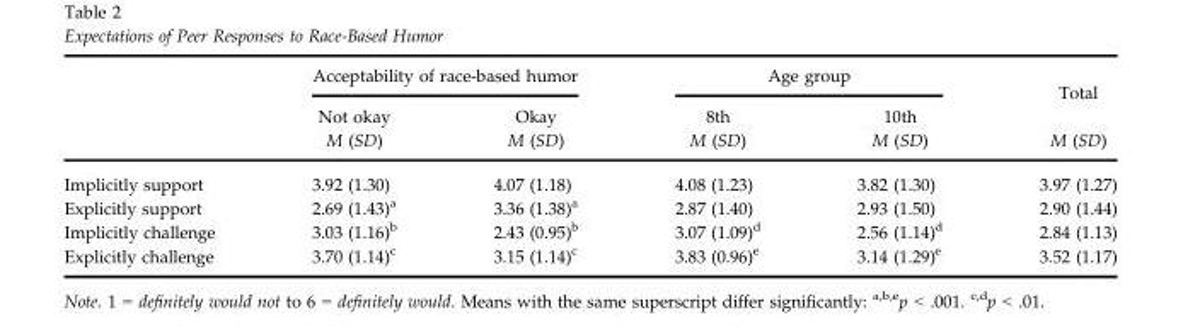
<table><thead><tr><td rowspan="2"></td><td colspan="2">Acceptability of race-based humor</td><td colspan="2">Age group</td><td rowspan="2">Total M (SD)</td></tr><tr><td>Not okay M (SD)</td><td>Okay M (SD)</td><td>8th M (SD)</td><td>10th M (SD)</td></tr></thead><tbody><tr><td>Implicitly support</td><td>3.92 (1.30)</td><td>4.07 (1.18)</td><td>4.08 (1.23)</td><td>3.82 (1.30)</td><td>3.97 (1.27)</td></tr><tr><td>Explicitly support</td><td>2.69 (1.43)<sup>a</sup></td><td>3.36 (1.38)<sup>a</sup></td><td>2.87 (1.40)</td><td>2.93 (1.50)</td><td>2.90 (1.44)</td></tr><tr><td>Implicitly challenge</td><td>3.03 (1.16)<sup>b</sup></td><td>2.43 (0.95)<sup>b</sup></td><td>3.07 (1.09)<sup>d</sup></td><td>2.56 (1.14)<sup>d</sup></td><td>2.84 (1.13)</td></tr><tr><td>Explicitly challenge</td><td>3.70 (1.14)<sup>c</sup></td><td>3.15 (1.14)<sup>c</sup></td><td>3.83 (0.96)<sup>e</sup></td><td>3.14 (1.29)<sup>e</sup></td><td>3.52 (1.17)</td></tr></tbody></table>